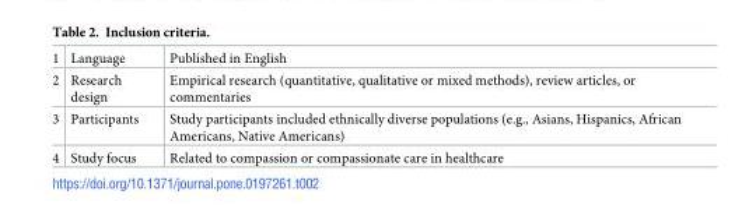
<table><tbody><tr><td>1</td><td>Language</td><td>Published in English</td></tr><tr><td>2</td><td>Research design</td><td>Empirical research (quantitative, qualitative or mixed methods), review articles, or commentaries</td></tr><tr><td>3</td><td>Participants</td><td>Study participants included ethnically diverse populations (e.g., Asians, Hispanics, African Americans, Native Americans)</td></tr><tr><td>4</td><td>Study focus</td><td>Related to compassion or compassionate care in healthcare</td></tr></tbody></table>